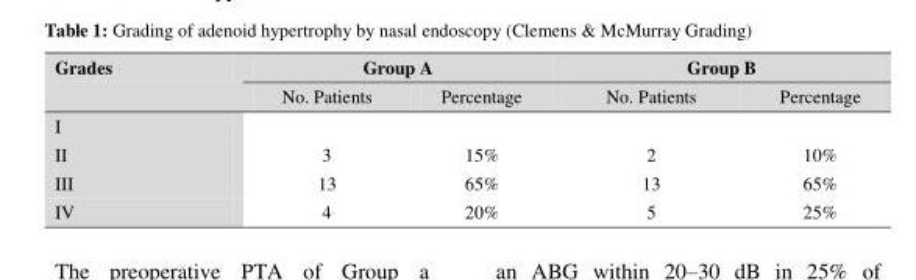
<table><thead><tr><td rowspan="2">Grades</td><td colspan="2">Group A</td><td colspan="2">Group B</td></tr><tr><td>No. Patients</td><td>Percentage</td><td>No. Patients</td><td>Percentage</td></tr></thead><tbody><tr><td colspan="5">I</td></tr><tr><td>II</td><td>3</td><td>15%</td><td>2</td><td>10%</td></tr><tr><td>III</td><td>13</td><td>65%</td><td>13</td><td>65%</td></tr><tr><td>IV</td><td>4</td><td>20%</td><td>5</td><td>25%</td></tr></tbody></table>